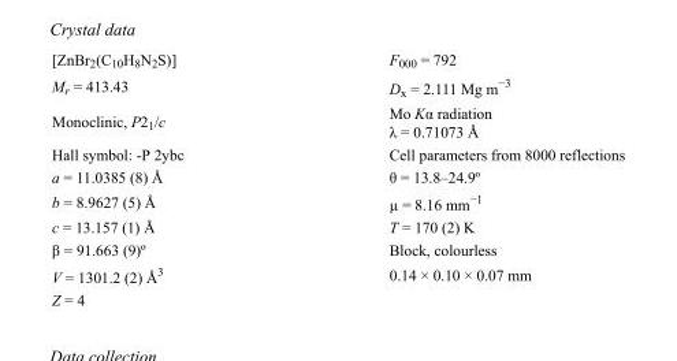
<table><tbody><tr><td>[ZnBr<sub>2</sub>(C<sub>10</sub>H<sub>8</sub>N<sub>2</sub>S)]</td><td>F<sub>000</sub> = 792</td></tr><tr><td>M<sub>r</sub> = 413.43</td><td>D<sub>x</sub> = 2.111 Mg m<sup>−3</sup></td></tr><tr><td>Monoclinic, P2<sub>1</sub>/c</td><td>Mo Kα radiation λ = 0.71073 Å</td></tr><tr><td>Hall symbol: -P 2ybc</td><td>Cell parameters from 8000 reflections</td></tr><tr><td>a = 11.0385 (8) Å</td><td>θ = 13.8–24.9º</td></tr><tr><td>b = 8.9627 (5) Å</td><td>µ = 8.16 mm<sup>−1</sup></td></tr><tr><td>c = 13.157 (1) Å</td><td>T = 170 (2) K</td></tr><tr><td>β = 91.663 (9)º</td><td>Block, colourless</td></tr><tr><td>V = 1301.2 (2) Å<sup>3</sup></td><td>0.14 × 0.10 × 0.07 mm</td></tr><tr><td>Z = 4</td><td></td></tr></tbody></table>